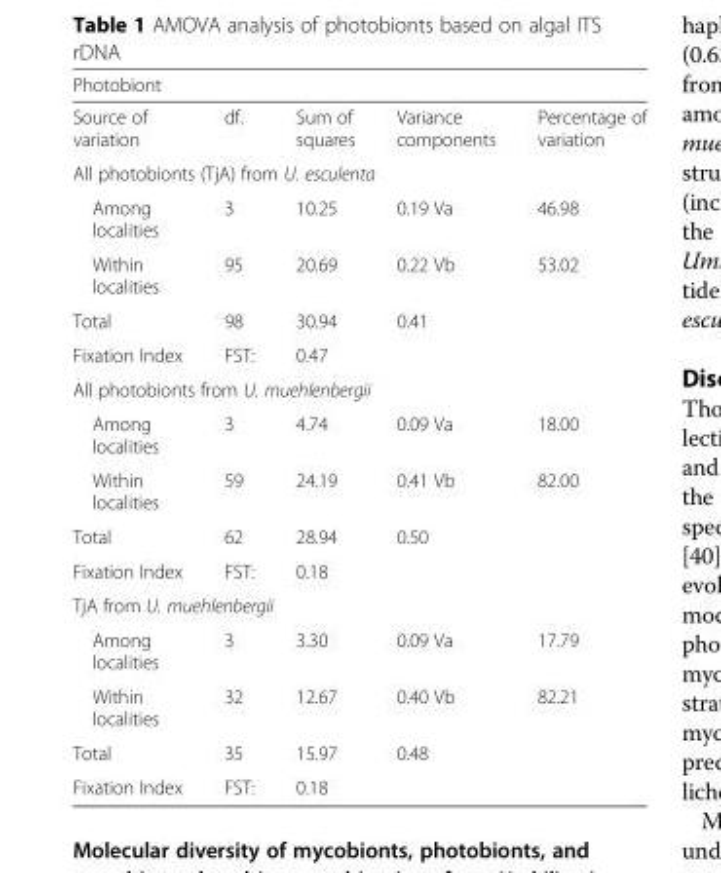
<table><thead><tr><td colspan="5">Photobiont</td></tr><tr><td>Source of variation</td><td>df.</td><td>Sum of squares</td><td>Variance components</td><td>Percentage of variation</td></tr></thead><tbody><tr><td colspan="5">All photobionts (TjA) from U. esculenta</td></tr><tr><td>Among localities</td><td>3</td><td>10.25</td><td>0.19 Va</td><td>46.98</td></tr><tr><td>Within localities</td><td>95</td><td>20.69</td><td>0.22 Vb</td><td>53.02</td></tr><tr><td>Total</td><td>98</td><td>30.94</td><td>0.41</td><td></td></tr><tr><td>Fixation Index</td><td>FST:</td><td colspan="3">0.47</td></tr><tr><td colspan="5">All photobionts from U. muehlenbergii</td></tr><tr><td>Among localities</td><td>3</td><td>4.74</td><td>0.09 Va</td><td>18.00</td></tr><tr><td>Within localities</td><td>59</td><td>24.19</td><td>0.41 Vb</td><td>82.00</td></tr><tr><td>Total</td><td>62</td><td>28.94</td><td>0.50</td><td></td></tr><tr><td>Fixation Index</td><td>FST:</td><td colspan="3">0.18</td></tr><tr><td colspan="5">TjA from U. muehlenbergii</td></tr><tr><td>Among localities</td><td>3</td><td>3.30</td><td>0.09 Va</td><td>17.79</td></tr><tr><td>Within localities</td><td>32</td><td>12.67</td><td>0.40 Vb</td><td>82.21</td></tr><tr><td>Total</td><td>35</td><td>15.97</td><td>0.48</td><td></td></tr><tr><td>Fixation Index</td><td>FST:</td><td colspan="3">0.18</td></tr></tbody></table>